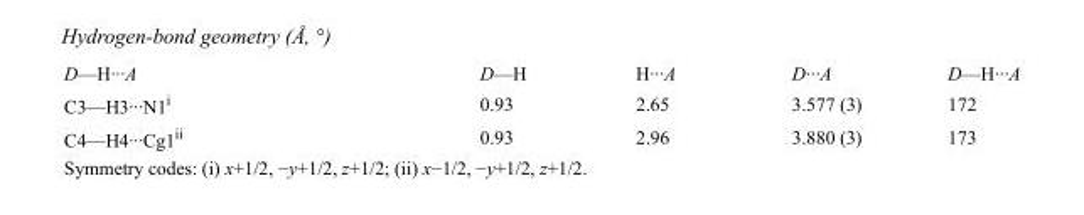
<table><tbody><tr><td>D—H···A</td><td>D—H</td><td>H···A</td><td>D···A</td><td>D—H···A</td></tr><tr><td>C3—H3···N1<sup>i</sup></td><td>0.93</td><td>2.65</td><td>3.577 (3)</td><td>172</td></tr><tr><td>C4—H4···Cg1<sup>ii</sup></td><td>0.93</td><td>2.96</td><td>3.880 (3)</td><td>173</td></tr></tbody></table>